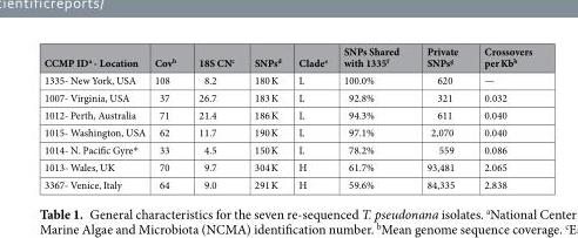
<table><thead><tr><td>CCMP ID<sup>a</sup> - Location</td><td>Cov<sup>b</sup></td><td>18S CN<sup>c</sup></td><td>SNPs<sup>d</sup></td><td>Clade<sup>e</sup></td><td>SNPs Shared with 1335<sup>f</sup></td><td>Private SNPs<sup>g</sup></td><td>Crossovers per Kb<sup>h</sup></td></tr></thead><tbody><tr><td>1335- New York, USA</td><td>108</td><td>8.2</td><td>180 K</td><td>L</td><td>100.0%</td><td>620</td><td>—</td></tr><tr><td>1007- Virginia, USA</td><td>37</td><td>26.7</td><td>183 K</td><td>L</td><td>92.8%</td><td>321</td><td>0.032</td></tr><tr><td>1012- Perth, Australia</td><td>71</td><td>21.4</td><td>186 K</td><td>L</td><td>94.3%</td><td>611</td><td>0.040</td></tr><tr><td>1015- Washington, USA</td><td>62</td><td>11.7</td><td>190 K</td><td>L</td><td>97.1%</td><td>2,070</td><td>0.040</td></tr><tr><td>1014- N. Pacific Gyre*</td><td>33</td><td>4.5</td><td>150 K</td><td>L</td><td>78.2%</td><td>559</td><td>0.086</td></tr><tr><td>1013- Wales, UK</td><td>70</td><td>9.7</td><td>304 K</td><td>H</td><td>61.7%</td><td>93,481</td><td>2.065</td></tr><tr><td>3367- Venice, Italy</td><td>64</td><td>9.0</td><td>291 K</td><td>H</td><td>59.6%</td><td>84,335</td><td>2.838</td></tr></tbody></table>